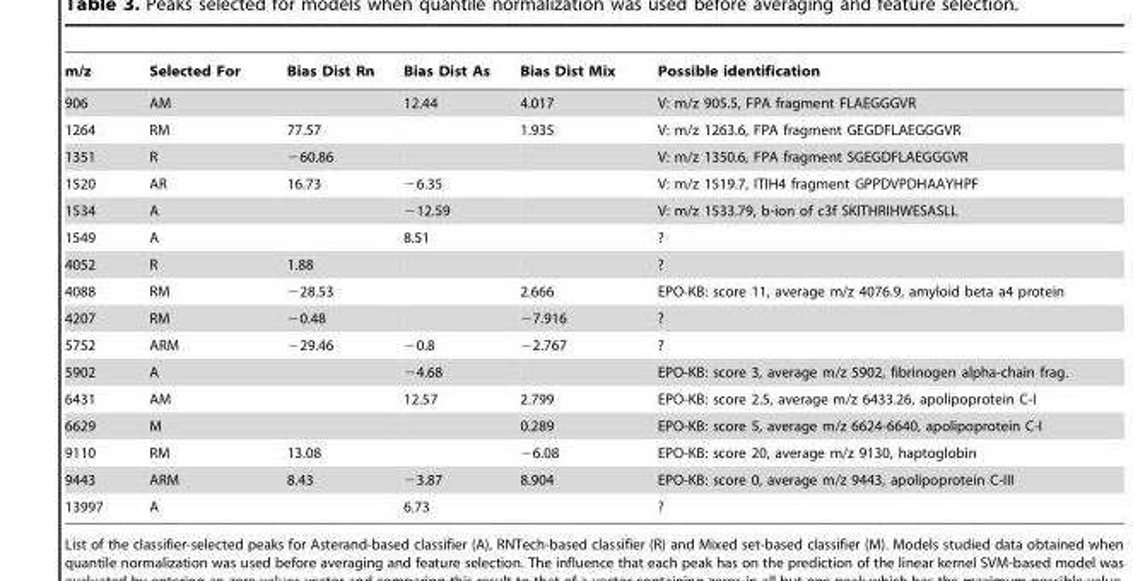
<table><thead><tr><td>m/z</td><td>Selected For</td><td>Bias Dist Rn</td><td>Bias Dist As</td><td>Bias Dist Mix</td><td>Possible identification</td></tr></thead><tbody><tr><td>906</td><td>AM</td><td></td><td>12.44</td><td>4.017</td><td>V: m/z 905.5, FPA fragment FLAEGGGVR</td></tr><tr><td>1264</td><td>RM</td><td>77.57</td><td></td><td>1.935</td><td>V: m/z 1263.6, FPA fragment GEGDFLAEGGGVR</td></tr><tr><td>1351</td><td>R</td><td>−60.86</td><td></td><td></td><td>V: m/z 1350.6, FPA fragment SGEGDFLAEGGGVR</td></tr><tr><td>1520</td><td>AR</td><td>16.73</td><td>−6.35</td><td></td><td>V: m/z 1519.7, ITIH4 fragment GPPDVPDHAAYHPF</td></tr><tr><td>1534</td><td>A</td><td></td><td>−12.59</td><td></td><td>V: m/z 1533.79, b-ion of c3f SKITHRIHWESASLL</td></tr><tr><td>1549</td><td>A</td><td></td><td>8.51</td><td></td><td>?</td></tr><tr><td>4052</td><td>R</td><td>1.88</td><td></td><td></td><td>?</td></tr><tr><td>4088</td><td>RM</td><td>−28.53</td><td></td><td>2.666</td><td>EPO-KB: score 11, average m/z 4076.9, amyloid beta a4 protein</td></tr><tr><td>4207</td><td>RM</td><td>−0.48</td><td></td><td>−7.916</td><td>?</td></tr><tr><td>5752</td><td>ARM</td><td>−29.46</td><td>−0.8</td><td>−2.767</td><td>?</td></tr><tr><td>5902</td><td>A</td><td></td><td>−4.68</td><td></td><td>EPO-KB: score 3, average m/z 5902, fibrinogen alpha-chain frag.</td></tr><tr><td>6431</td><td>AM</td><td></td><td>12.57</td><td>2.799</td><td>EPO-KB: score 2.5, average m/z 6433.26, apolipoprotein C-I</td></tr><tr><td>6629</td><td>M</td><td></td><td></td><td>0.289</td><td>EPO-KB: score 5, average m/z 6624-6640, apolipoprotein C-I</td></tr><tr><td>9110</td><td>RM</td><td>13.08</td><td></td><td>−6.08</td><td>EPO-KB: score 20, average m/z 9130, haptoglobin</td></tr><tr><td>9443</td><td>ARM</td><td>8.43</td><td>−3.87</td><td>8.904</td><td>EPO-KB: score 0, average m/z 9443, apolipoprotein C-III</td></tr><tr><td>13997</td><td>A</td><td></td><td>6.73</td><td></td><td>?</td></tr></tbody></table>